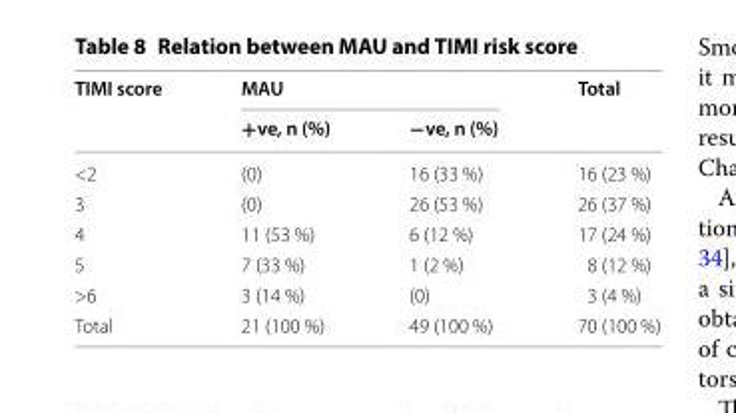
<table><thead><tr><td rowspan="2">TIMI score</td><td colspan="2">MAU</td><td rowspan="2">Total</td></tr><tr><td>+ve, n (%)</td><td>−ve, n (%)</td></tr></thead><tbody><tr><td>&lt;2</td><td>(0)</td><td>16 (33 %)</td><td>16 (23 %)</td></tr><tr><td>3</td><td>(0)</td><td>26 (53 %)</td><td>26 (37 %)</td></tr><tr><td>4</td><td>11 (53 %)</td><td>6 (12 %)</td><td>17 (24 %)</td></tr><tr><td>5</td><td>7 (33 %)</td><td>1 (2 %)</td><td>8 (12 %)</td></tr><tr><td>&gt;6</td><td>3 (14 %)</td><td>(0)</td><td>3 (4 %)</td></tr><tr><td>Total</td><td>21 (100 %)</td><td>49 (100 %)</td><td>70 (100 %)</td></tr></tbody></table>